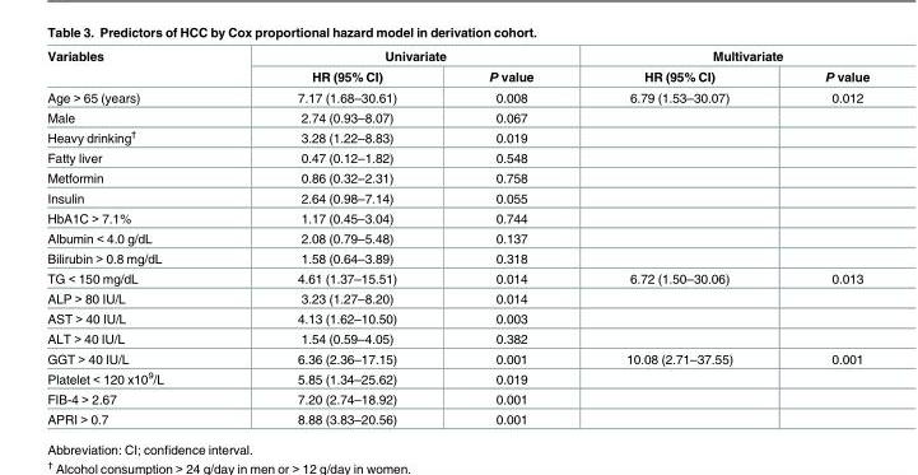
<table><thead><tr><td rowspan="2">Variables</td><td colspan="2">Univariate</td><td colspan="2">Multivariate</td></tr><tr><td>HR (95% CI)</td><td>P value</td><td>HR (95% CI)</td><td>P value</td></tr></thead><tbody><tr><td>Age &gt; 65 (years)</td><td>7.17 (1.68–30.61)</td><td>0.008</td><td>6.79 (1.53–30.07)</td><td>0.012</td></tr><tr><td>Male</td><td>2.74 (0.93–8.07)</td><td>0.067</td><td></td><td></td></tr><tr><td>Heavy drinking<sup>†</sup></td><td>3.28 (1.22–8.83)</td><td>0.019</td><td></td><td></td></tr><tr><td>Fatty liver</td><td>0.47 (0.12–1.82)</td><td>0.548</td><td></td><td></td></tr><tr><td>Metformin</td><td>0.86 (0.32–2.31)</td><td>0.758</td><td></td><td></td></tr><tr><td>Insulin</td><td>2.64 (0.98–7.14)</td><td>0.055</td><td></td><td></td></tr><tr><td>HbA1C &gt; 7.1%</td><td>1.17 (0.45–3.04)</td><td>0.744</td><td></td><td></td></tr><tr><td>Albumin &lt; 4.0 g/dL</td><td>2.08 (0.79–5.48)</td><td>0.137</td><td></td><td></td></tr><tr><td>Bilirubin &gt; 0.8 mg/dL</td><td>1.58 (0.64–3.89)</td><td>0.318</td><td></td><td></td></tr><tr><td>TG &lt; 150 mg/dL</td><td>4.61 (1.37–15.51)</td><td>0.014</td><td>6.72 (1.50–30.06)</td><td>0.013</td></tr><tr><td>ALP &gt; 80 IU/L</td><td>3.23 (1.27–8.20)</td><td>0.014</td><td></td><td></td></tr><tr><td>AST &gt; 40 IU/L</td><td>4.13 (1.62–10.50)</td><td>0.003</td><td></td><td></td></tr><tr><td>ALT &gt; 40 IU/L</td><td>1.54 (0.59–4.05)</td><td>0.382</td><td></td><td></td></tr><tr><td>GGT &gt; 40 IU/L</td><td>6.36 (2.36–17.15)</td><td>0.001</td><td>10.08 (2.71–37.55)</td><td>0.001</td></tr><tr><td>Platelet &lt; 120 x10<sup>9</sup>/L</td><td>5.85 (1.34–25.62)</td><td>0.019</td><td></td><td></td></tr><tr><td>FIB-4 &gt; 2.67</td><td>7.20 (2.74–18.92)</td><td>0.001</td><td></td><td></td></tr><tr><td>APRI &gt; 0.7</td><td>8.88 (3.83–20.56)</td><td>0.001</td><td></td><td></td></tr></tbody></table>